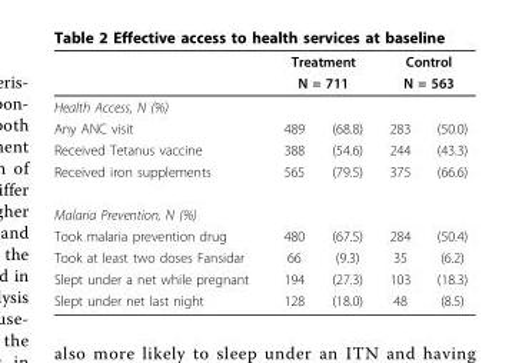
<table><thead><tr><td rowspan="3">Health Access, N (%)</td><td rowspan="2" colspan="2">Treatment N = 711</td><td rowspan="2" colspan="2">Control N = 563</td></tr><tr></tr><tr><td></td><td></td><td></td><td></td></tr></thead><tbody><tr><td>Any ANC visit</td><td>489</td><td>(68.8)</td><td>283</td><td>(50.0)</td></tr><tr><td>Received Tetanus vaccine</td><td>388</td><td>(54.6)</td><td>244</td><td>(43.3)</td></tr><tr><td>Received iron supplements</td><td>565</td><td>(79.5)</td><td>375</td><td>(66.6)</td></tr><tr><td colspan="5">Malaria Prevention, N (%)</td></tr><tr><td>Took malaria prevention drug</td><td>480</td><td>(67.5)</td><td>284</td><td>(50.4)</td></tr><tr><td>Took at least two doses Fansidar</td><td>66</td><td>(9.3)</td><td>35</td><td>(6.2)</td></tr><tr><td>Slept under a net while pregnant</td><td>194</td><td>(27.3)</td><td>103</td><td>(18.3)</td></tr><tr><td>Slept under net last night</td><td>128</td><td>(18.0)</td><td>48</td><td>(8.5)</td></tr></tbody></table>